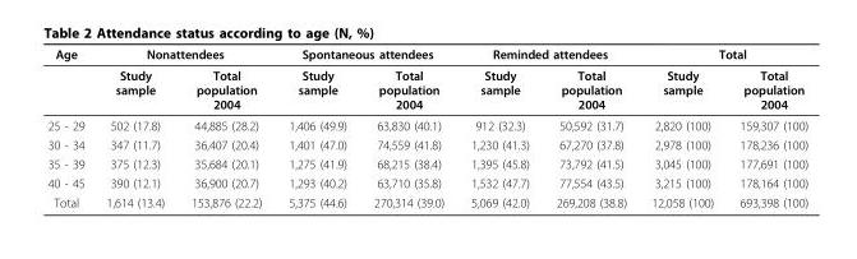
<table><thead><tr><td rowspan="2">Age</td><td colspan="2">Nonattendees</td><td colspan="2">Spontaneous attendees</td><td colspan="2">Reminded attendees</td><td colspan="2">Total</td></tr><tr><td>Study sample</td><td>Total population 2004</td><td>Study sample</td><td>Total population 2004</td><td>Study sample</td><td>Total population 2004</td><td>Study sample</td><td>Total population 2004</td></tr></thead><tbody><tr><td>25 - 29</td><td>502 (17.8)</td><td>44,885 (28.2)</td><td>1,406 (49.9)</td><td>63,830 (40.1)</td><td>912 (32.3)</td><td>50,592 (31.7)</td><td>2,820 (100)</td><td>159,307 (100)</td></tr><tr><td>30 - 34</td><td>347 (11.7)</td><td>36,407 (20.4)</td><td>1,401 (47.0)</td><td>74,559 (41.8)</td><td>1,230 (41.3)</td><td>67,270 (37.8)</td><td>2,978 (100)</td><td>178,236 (100)</td></tr><tr><td>35 - 39</td><td>375 (12.3)</td><td>35,684 (20.1)</td><td>1,275 (41.9)</td><td>68,215 (38.4)</td><td>1,395 (45.8)</td><td>73,792 (41.5)</td><td>3,045 (100)</td><td>177,691 (100)</td></tr><tr><td>40 - 45</td><td>390 (12.1)</td><td>36,900 (20.7)</td><td>1,293 (40.2)</td><td>63,710 (35.8)</td><td>1,532 (47.7)</td><td>77,554 (43.5)</td><td>3,215 (100)</td><td>178,164 (100)</td></tr><tr><td>Total</td><td>1,614 (13.4)</td><td>153,876 (22.2)</td><td>5,375 (44.6)</td><td>270,314 (39.0)</td><td>5,069 (42.0)</td><td>269,208 (38.8)</td><td>12,058 (100)</td><td>693,398 (100)</td></tr></tbody></table>